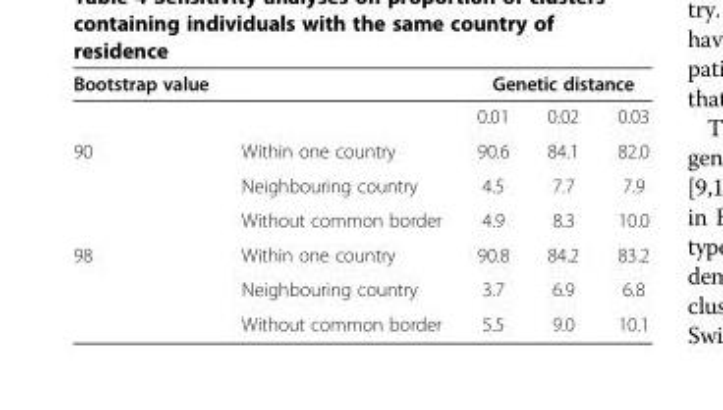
<table><thead><tr><td rowspan="2">Bootstrap value</td><td rowspan="2"></td><td colspan="3">Genetic distance</td></tr><tr><td>0.01</td><td>0.02</td><td>0.03</td></tr></thead><tbody><tr><td rowspan="3">90</td><td>Within one country</td><td>90.6</td><td>84.1</td><td>82.0</td></tr><tr><td>Neighbouring country</td><td>4.5</td><td>7.7</td><td>7.9</td></tr><tr><td>Without common border</td><td>4.9</td><td>8.3</td><td>10.0</td></tr><tr><td rowspan="3">98</td><td>Within one country</td><td>90.8</td><td>84.2</td><td>83.2</td></tr><tr><td>Neighbouring country</td><td>3.7</td><td>6.9</td><td>6.8</td></tr><tr><td>Without common border</td><td>5.5</td><td>9.0</td><td>10.1</td></tr></tbody></table>